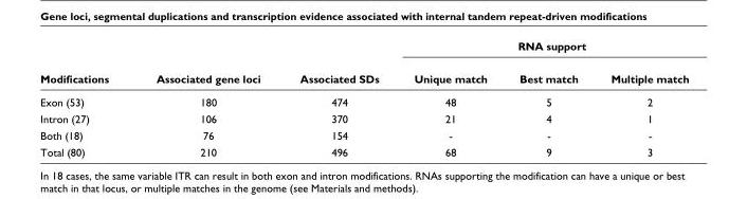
<table><thead><tr><td rowspan="2">Modifications</td><td rowspan="2">Associated gene loci</td><td rowspan="2">Associated SDs</td><td colspan="3">RNA support</td></tr><tr><td>Unique match</td><td>Best match</td><td>Multiple match</td></tr></thead><tbody><tr><td>Exon (53)</td><td>180</td><td>474</td><td>48</td><td>5</td><td>2</td></tr><tr><td>Intron (27)</td><td>106</td><td>370</td><td>21</td><td>4</td><td>1</td></tr><tr><td>Both (18)</td><td>76</td><td>154</td><td>-</td><td>-</td><td>-</td></tr><tr><td>Total (80)</td><td>210</td><td>496</td><td>68</td><td>9</td><td>3</td></tr></tbody></table>